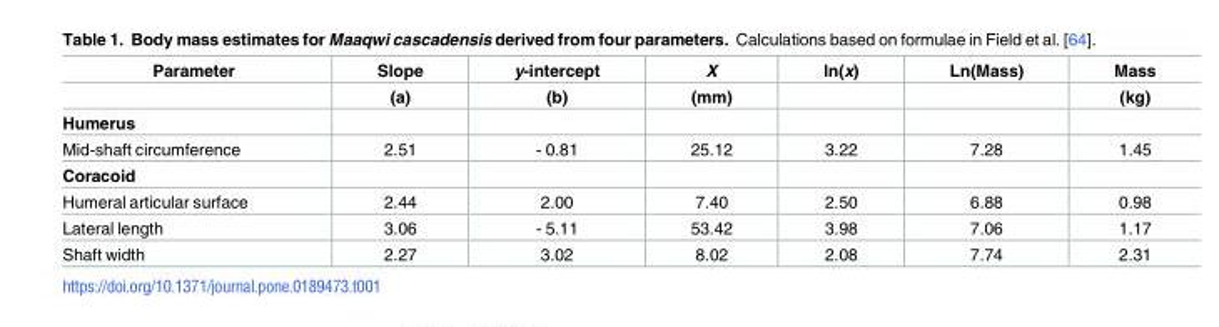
<table><thead><tr><td rowspan="2">Parameter</td><td rowspan="2">Slope (a)</td><td rowspan="2">y-intercept (b)</td><td rowspan="2">X (mm)</td><td rowspan="2">ln(x)</td><td rowspan="2">Ln(Mass)</td><td rowspan="2">Mass (kg)</td></tr><tr></tr></thead><tbody><tr><td colspan="7">Humerus</td></tr><tr><td>Mid-shaft circumference</td><td>2.51</td><td>- 0.81</td><td>25.12</td><td>3.22</td><td>7.28</td><td>1.45</td></tr><tr><td colspan="7">Coracoid</td></tr><tr><td>Humeral articular surface</td><td>2.44</td><td>2.00</td><td>7.40</td><td>2.50</td><td>6.88</td><td>0.98</td></tr><tr><td>Lateral length</td><td>3.06</td><td>- 5.11</td><td>53.42</td><td>3.98</td><td>7.06</td><td>1.17</td></tr><tr><td>Shaft width</td><td>2.27</td><td>3.02</td><td>8.02</td><td>2.08</td><td>7.74</td><td>2.31</td></tr></tbody></table>